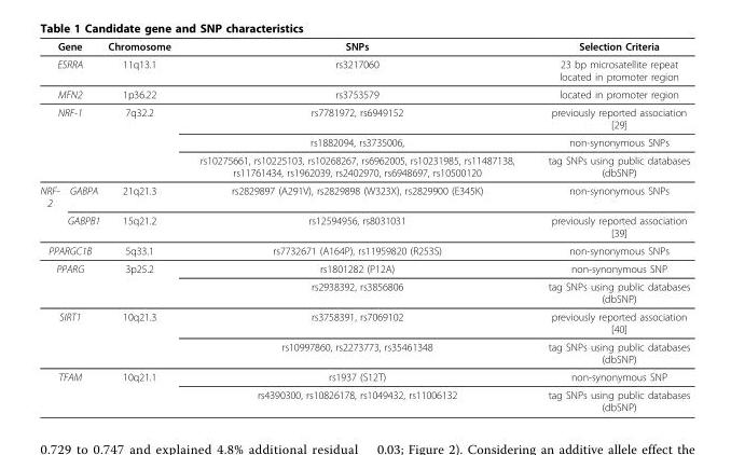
<table><thead><tr><td colspan="2">Gene</td><td>Chromosome</td><td>SNPs</td><td>Selection Criteria</td></tr></thead><tbody><tr><td colspan="2">ESRRA</td><td>11q13.1</td><td>rs3217060</td><td>23 bp microsatellite repeat located in promoter region</td></tr><tr><td colspan="2">MFN2</td><td>1p36.22</td><td>rs3753579</td><td>located in promoter region</td></tr><tr><td colspan="2">NRF-1</td><td>7q32.2</td><td>rs7781972, rs6949152</td><td>previously reported association [29]</td></tr><tr><td></td><td></td><td></td><td>rs1882094, rs3735006,</td><td>non-synonymous SNPs</td></tr><tr><td></td><td></td><td></td><td>rs10275661, rs10225103, rs10268267, rs6962005, rs10231985, rs11487138, rs11761434, rs1962039, rs2402970, rs6948697, rs10500120</td><td>tag SNPs using public databases (dbSNP)</td></tr><tr><td rowspan="2">NRF- 2</td><td>GABPA</td><td>21q21.3</td><td>rs2829897 (A291V), rs2829898 (W323X), rs2829900 (E345K)</td><td>non-synonymous SNPs</td></tr><tr><td>GABPB1</td><td>15q21.2</td><td>rs12594956, rs8031031</td><td>previously reported association [39]</td></tr><tr><td colspan="2">PPARGC1B</td><td>5q33.1</td><td>rs7732671 (A164P), rs11959820 (R253S)</td><td>non-synonymous SNPs</td></tr><tr><td colspan="2">PPARG</td><td>3p25.2</td><td>rs1801282 (P12A)</td><td>non-synonymous SNP</td></tr><tr><td></td><td></td><td></td><td>rs2938392, rs3856806</td><td>tag SNPs using public databases (dbSNP)</td></tr><tr><td colspan="2">SIRT1</td><td>10q21.3</td><td>rs3758391, rs7069102</td><td>previously reported association [40]</td></tr><tr><td></td><td></td><td></td><td>rs10997860, rs2273773, rs35461348</td><td>tag SNPs using public databases (dbSNP)</td></tr><tr><td colspan="2">TFAM</td><td>10q21.1</td><td>rs1937 (S12T)</td><td>non-synonymous SNP</td></tr><tr><td></td><td></td><td></td><td>rs4390300, rs10826178, rs1049432, rs11006132</td><td>tag SNPs using public databases (dbSNP)</td></tr></tbody></table>